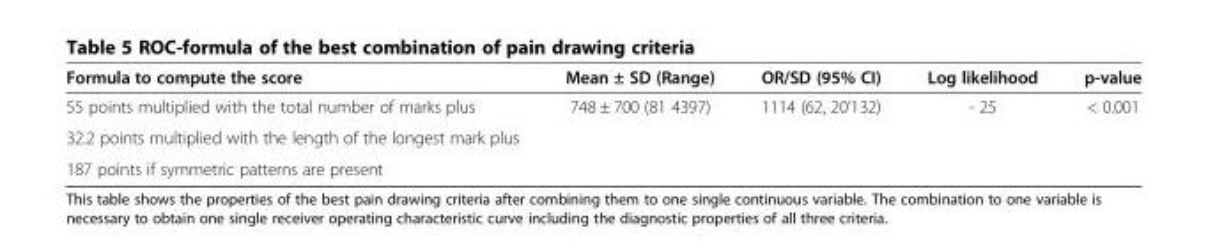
<table><thead><tr><td>Formula to compute the score</td><td>Mean ± SD (Range)</td><td>OR/SD (95% CI)</td><td>Log likelihood</td><td>p-value</td></tr></thead><tbody><tr><td>55 points multiplied with the total number of marks plus</td><td>748 ± 700 (81 4397)</td><td>1114 (62, 20’132)</td><td>- 25</td><td>&lt; 0.001</td></tr><tr><td colspan="5">32.2 points multiplied with the length of the longest mark plus</td></tr><tr><td>187 points if symmetric patterns are present</td><td></td><td></td><td></td><td></td></tr></tbody></table>